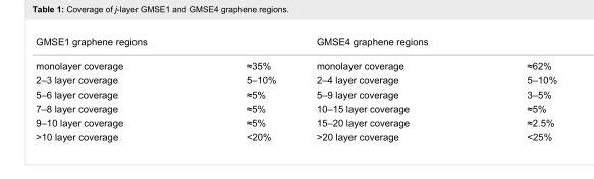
<table><tbody><tr><td colspan="2">GMSE1 graphene regions</td><td colspan="2">GMSE4 graphene regions</td></tr><tr><td>monolayer coverage</td><td>≈35%</td><td>monolayer coverage</td><td>≈62%</td></tr><tr><td>2–3 layer coverage</td><td>5–10%</td><td>2–4 layer coverage</td><td>5–10%</td></tr><tr><td>5–6 layer coverage</td><td>≈5%</td><td>5–9 layer coverage</td><td>3–5%</td></tr><tr><td>7–8 layer coverage</td><td>≈5%</td><td>10–15 layer coverage</td><td>≈5%</td></tr><tr><td>9–10 layer coverage</td><td>≈5%</td><td>15–20 layer coverage</td><td>≈2.5%</td></tr><tr><td>&gt;10 layer coverage</td><td>&lt;20%</td><td>&gt;20 layer coverage</td><td>&lt;25%</td></tr></tbody></table>